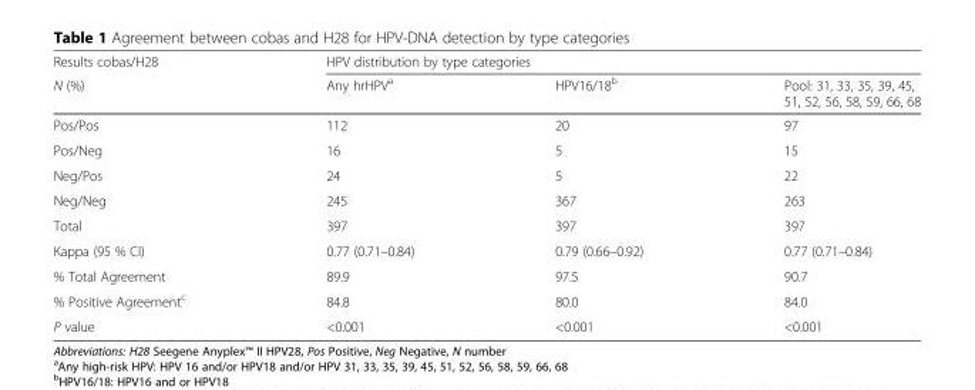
<table><thead><tr><td rowspan="2">Results cobas/H28 N (%)</td><td colspan="3">HPV distribution by type categories</td></tr><tr><td>Any hrHPV<sup>a</sup></td><td>HPV16/18<sup>b</sup></td><td>Pool: 31, 33, 35, 39, 45, 51, 52, 56, 58, 59, 66, 68</td></tr></thead><tbody><tr><td>Pos/Pos</td><td>112</td><td>20</td><td>97</td></tr><tr><td>Pos/Neg</td><td>16</td><td>5</td><td>15</td></tr><tr><td>Neg/Pos</td><td>24</td><td>5</td><td>22</td></tr><tr><td>Neg/Neg</td><td>245</td><td>367</td><td>263</td></tr><tr><td>Total</td><td>397</td><td>397</td><td>397</td></tr><tr><td>Kappa (95 % CI)</td><td>0.77 (0.71–0.84)</td><td>0.79 (0.66–0.92)</td><td>0.77 (0.71–0.84)</td></tr><tr><td>% Total Agreement</td><td>89.9</td><td>97.5</td><td>90.7</td></tr><tr><td>% Positive Agreement<sup>c</sup></td><td>84.8</td><td>80.0</td><td>84.0</td></tr><tr><td>P value</td><td>&lt;0.001</td><td>&lt;0.001</td><td>&lt;0.001</td></tr></tbody></table>